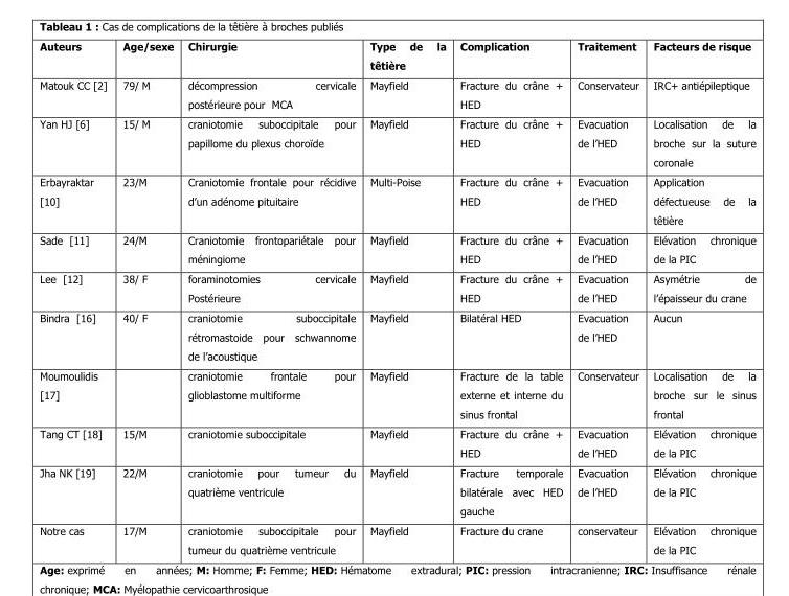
<table><thead><tr><td>Auteurs</td><td>Age/sexe</td><td>Chirurgie</td><td>Type de la têtière</td><td>Complication</td><td>Traitement</td><td>Facteurs de risque</td></tr></thead><tbody><tr><td>Matouk CC [2]</td><td>79/ M</td><td>décompression cervicale postérieure pour MCA</td><td>Mayfield</td><td>Fracture du crâne + HED</td><td>Conservateur</td><td>IRC+ antiépileptique</td></tr><tr><td>Yan HJ [6]</td><td>15/ M</td><td>craniotomie suboccipitale pour papillome du plexus choroïde</td><td>Mayfield</td><td>Fracture du crâne + HED</td><td>Evacuation de l’HED</td><td>Localisation de la broche sur la suture coronale</td></tr><tr><td>Erbayraktar [10]</td><td>23/M</td><td>Craniotomie frontale pour récidive d’un adénome pituitaire</td><td>Multi-Poise</td><td>Fracture du crâne + HED</td><td>Evacuation de l’HED</td><td>Application défectueuse de la têtière</td></tr><tr><td>Sade [11]</td><td>24/M</td><td>Craniotomie frontopariétale pour méningiome</td><td>Mayfield</td><td>Fracture du crâne + HED</td><td>Evacuation de l’HED</td><td>Elévation chronique de la PIC</td></tr><tr><td>Lee [12]</td><td>38/ F</td><td>foraminotomies cervicale Postérieure</td><td>Mayfield</td><td>Fracture du crâne + HED</td><td>Evacuation de l’HED</td><td>Asymétrie de l’épaisseur du crane</td></tr><tr><td>Bindra [16]</td><td>40/ F</td><td>craniotomie suboccipitale rétromastoide pour schwannome de l’acoustique</td><td>Mayfield</td><td>Bilatéral HED</td><td>Evacuation de l’HED</td><td>Aucun</td></tr><tr><td>Moumoulidis [17]</td><td></td><td>craniotomie frontale pour glioblastome multiforme</td><td>Mayfield</td><td>Fracture de la table externe et interne du sinus frontal</td><td>Conservateur</td><td>Localisation de la broche sur le sinus frontal</td></tr><tr><td>Tang CT [18]</td><td>15/M</td><td>craniotomie suboccipitale</td><td>Mayfield</td><td>Fracture du crâne + HED</td><td>Evacuation de l’HED</td><td>Elévation chronique de la PIC</td></tr><tr><td>Jha NK [19]</td><td>22/M</td><td>craniotomie pour tumeur du quatrième ventricule</td><td>Mayfield</td><td>Fracture temporale bilatérale avec HED gauche</td><td>Evacuation de l’HED</td><td>Elévation chronique de la PIC</td></tr><tr><td>Notre cas</td><td>17/M</td><td>craniotomie suboccipitale pour tumeur du quatrième ventricule</td><td>Mayfield</td><td>Fracture du crane</td><td>conservateur</td><td>Elévation chronique de la PIC</td></tr></tbody></table>